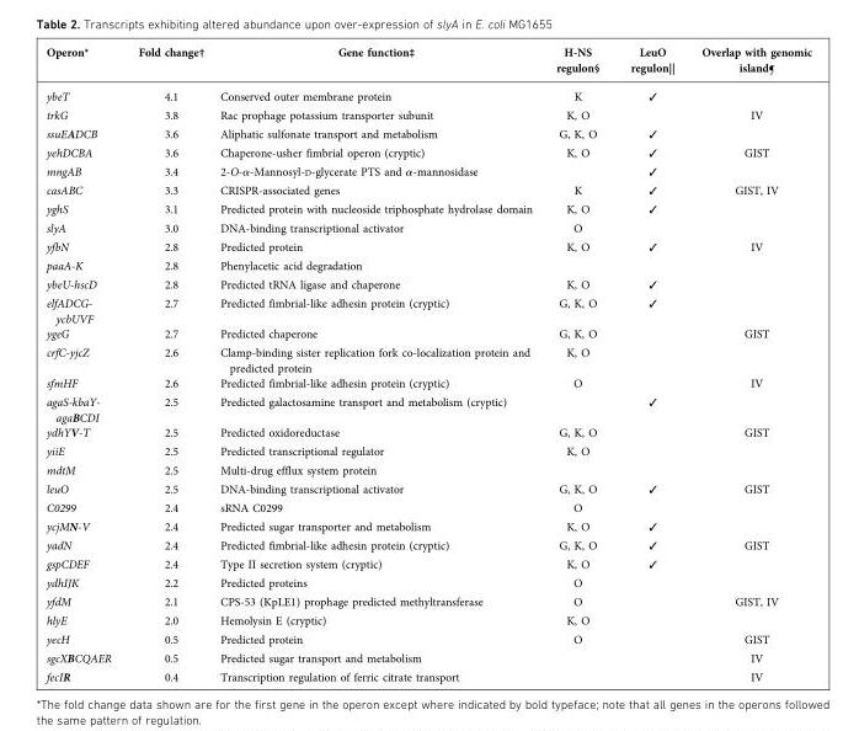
<table><thead><tr><td>Operon*</td><td>Fold change†</td><td>Gene function‡</td><td>H-NS regulon§</td><td>LeuO regulon||</td><td>Overlap with genomic island¶</td></tr></thead><tbody><tr><td>ybeT</td><td>4.1</td><td>Conserved outer membrane protein</td><td>K</td><td>✓</td><td></td></tr><tr><td>trkG</td><td>3.8</td><td>Rac prophage potassium transporter subunit</td><td>K, O</td><td></td><td>IV</td></tr><tr><td>ssuEADCB</td><td>3.6</td><td>Aliphatic sulfonate transport and metabolism</td><td>G, K, O</td><td>✓</td><td></td></tr><tr><td>yehDCBA</td><td>3.6</td><td>Chaperone-usher fimbrial operon (cryptic)</td><td>K, O</td><td>✓</td><td>GIST</td></tr><tr><td>mngAB</td><td>3.4</td><td>2-O-α-Mannosyl-D-glycerate PTS and α-mannosidase</td><td></td><td>✓</td><td></td></tr><tr><td>casABC</td><td>3.3</td><td>CRISPR-associated genes</td><td>K</td><td>✓</td><td>GIST, IV</td></tr><tr><td>yghS</td><td>3.1</td><td>Predicted protein with nucleoside triphosphate hydrolase domain</td><td>K, O</td><td>✓</td><td></td></tr><tr><td>slyA</td><td>3.0</td><td>DNA-binding transcriptional activator</td><td>O</td><td></td><td></td></tr><tr><td>yfbN</td><td>2.8</td><td>Predicted protein</td><td>K, O</td><td>✓</td><td>IV</td></tr><tr><td>paaA-K</td><td>2.8</td><td>Phenylacetic acid degradation</td><td></td><td></td><td></td></tr><tr><td>ybeU-hscD</td><td>2.8</td><td>Predicted tRNA ligase and chaperone</td><td>K, O</td><td>✓</td><td></td></tr><tr><td>elfADCG- ycbUVF</td><td>2.7</td><td>Predicted fimbrial-like adhesin protein (cryptic)</td><td>G, K, O</td><td>✓</td><td></td></tr><tr><td>ygeG</td><td>2.7</td><td>Predicted chaperone</td><td>G, K, O</td><td></td><td>GIST</td></tr><tr><td>crfC-yjcZ</td><td>2.6</td><td>Clamp-binding sister replication fork co-localization protein and predicted protein</td><td>K, O</td><td></td><td></td></tr><tr><td>sfmHF</td><td>2.6</td><td>Predicted fimbrial-like adhesin protein (cryptic)</td><td>O</td><td></td><td>IV</td></tr><tr><td>agaS-kbaY- agaBCDI</td><td>2.5</td><td>Predicted galactosamine transport and metabolism (cryptic)</td><td></td><td>✓</td><td></td></tr><tr><td>ydhYV-T</td><td>2.5</td><td>Predicted oxidoreductase</td><td>G, K, O</td><td></td><td>GIST</td></tr><tr><td>yiiE</td><td>2.5</td><td>Predicted transcriptional regulator</td><td>K, O</td><td></td><td></td></tr><tr><td>mdtM</td><td>2.5</td><td>Multi-drug efflux system protein</td><td></td><td></td><td></td></tr><tr><td>leuO</td><td>2.5</td><td>DNA-binding transcriptional activator</td><td>G, K, O</td><td>✓</td><td>GIST</td></tr><tr><td>C0299</td><td>2.4</td><td>sRNA C0299</td><td>O</td><td></td><td></td></tr><tr><td>ycjMN-V</td><td>2.4</td><td>Predicted sugar transporter and metabolism</td><td>K, O</td><td>✓</td><td></td></tr><tr><td>yadN</td><td>2.4</td><td>Predicted fimbrial-like adhesin protein (cryptic)</td><td>G, K, O</td><td>✓</td><td>GIST</td></tr><tr><td>gspCDEF</td><td>2.4</td><td>Type II secretion system (cryptic)</td><td>K, O</td><td>✓</td><td></td></tr><tr><td>ydhIJK</td><td>2.2</td><td>Predicted proteins</td><td>O</td><td></td><td></td></tr><tr><td>yfdM</td><td>2.1</td><td>CPS-53 (KpLE1) prophage predicted methyltransferase</td><td>O</td><td></td><td>GIST, IV</td></tr><tr><td>hlyE</td><td>2.0</td><td>Hemolysin E (cryptic)</td><td>K, O</td><td></td><td></td></tr><tr><td>yecH</td><td>0.5</td><td>Predicted protein</td><td>O</td><td></td><td>GIST</td></tr><tr><td>sgcXBCQAER</td><td>0.5</td><td>Predicted sugar transport and metabolism</td><td></td><td></td><td>IV</td></tr><tr><td>fecIR</td><td>0.4</td><td>Transcription regulation of ferric citrate transport</td><td></td><td></td><td>IV</td></tr></tbody></table>